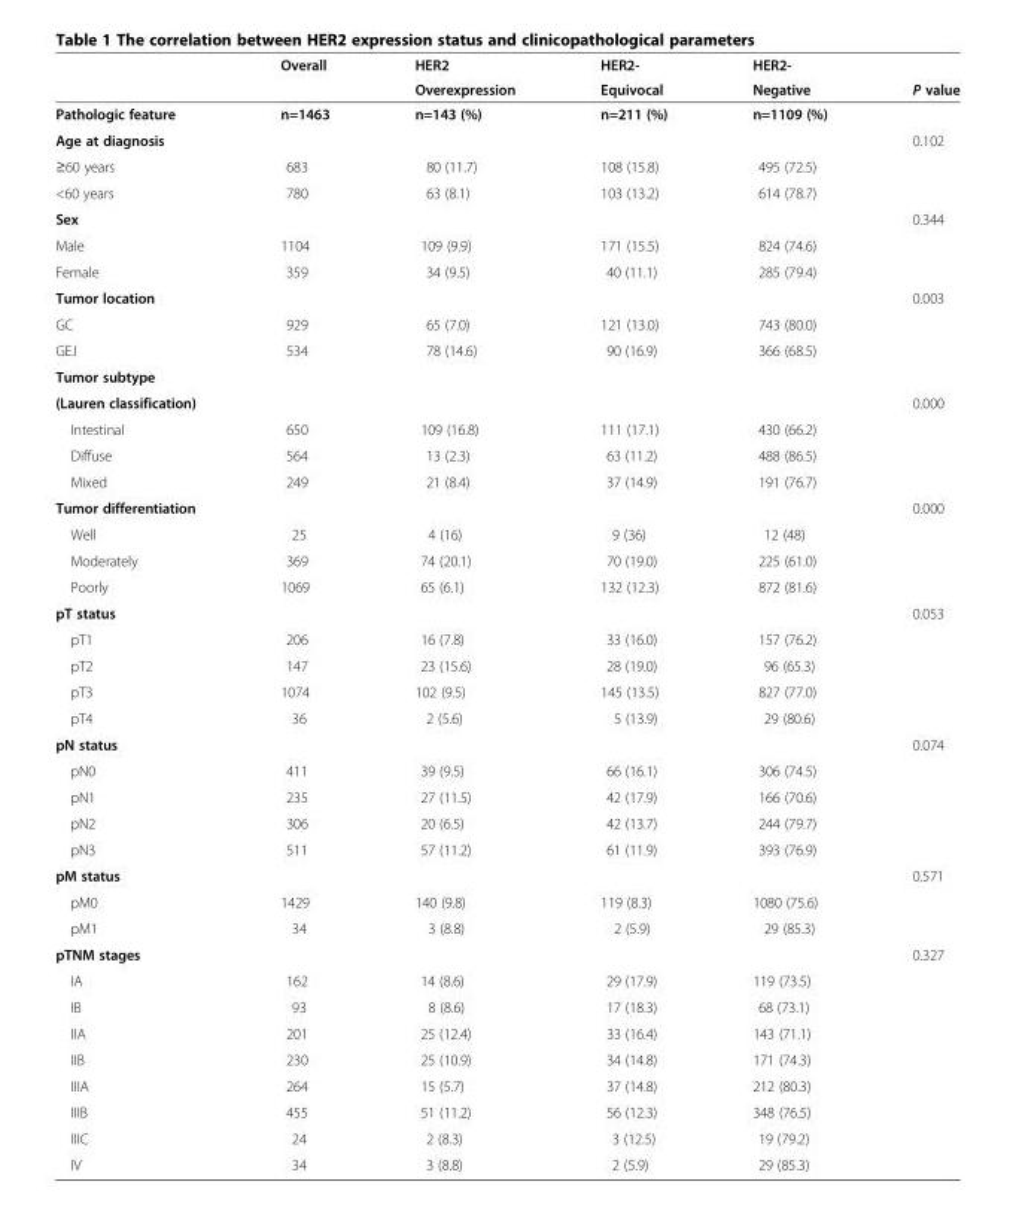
<table><thead><tr><td rowspan="2"></td><td rowspan="2">Overall</td><td rowspan="2">HER2 Overexpression</td><td rowspan="2">HER2- Equivocal</td><td rowspan="2">HER2- Negative</td><td rowspan="2">P value</td></tr><tr></tr></thead><tbody><tr><td>Pathologic feature</td><td>n=1463</td><td>n=143 (%)</td><td>n=211 (%)</td><td>n=1109 (%)</td><td></td></tr><tr><td>Age at diagnosis</td><td></td><td></td><td></td><td></td><td>0.102</td></tr><tr><td>≥60 years</td><td>683</td><td>80 (11.7)</td><td>108 (15.8)</td><td>495 (72.5)</td><td></td></tr><tr><td>&lt;60 years</td><td>780</td><td>63 (8.1)</td><td>103 (13.2)</td><td>614 (78.7)</td><td></td></tr><tr><td>Sex</td><td></td><td></td><td></td><td></td><td>0.344</td></tr><tr><td>Male</td><td>1104</td><td>109 (9.9)</td><td>171 (15.5)</td><td>824 (74.6)</td><td></td></tr><tr><td>Female</td><td>359</td><td>34 (9.5)</td><td>40 (11.1)</td><td>285 (79.4)</td><td></td></tr><tr><td>Tumor location</td><td></td><td></td><td></td><td></td><td>0.003</td></tr><tr><td>GC</td><td>929</td><td>65 (7.0)</td><td>121 (13.0)</td><td>743 (80.0)</td><td></td></tr><tr><td>GEJ</td><td>534</td><td>78 (14.6)</td><td>90 (16.9)</td><td>366 (68.5)</td><td></td></tr><tr><td colspan="6">Tumor subtype</td></tr><tr><td colspan="2">(Lauren classification)</td><td></td><td></td><td></td><td>0.000</td></tr><tr><td>Intestinal</td><td>650</td><td>109 (16.8)</td><td>111 (17.1)</td><td>430 (66.2)</td><td></td></tr><tr><td>Diffuse</td><td>564</td><td>13 (2.3)</td><td>63 (11.2)</td><td>488 (86.5)</td><td></td></tr><tr><td>Mixed</td><td>249</td><td>21 (8.4)</td><td>37 (14.9)</td><td>191 (76.7)</td><td></td></tr><tr><td>Tumor differentiation</td><td></td><td></td><td></td><td></td><td>0.000</td></tr><tr><td>Well</td><td>25</td><td>4 (16)</td><td>9 (36)</td><td>12 (48)</td><td></td></tr><tr><td>Moderately</td><td>369</td><td>74 (20.1)</td><td>70 (19.0)</td><td>225 (61.0)</td><td></td></tr><tr><td>Poorly</td><td>1069</td><td>65 (6.1)</td><td>132 (12.3)</td><td>872 (81.6)</td><td></td></tr><tr><td>pT status</td><td></td><td></td><td></td><td></td><td>0.053</td></tr><tr><td>pT1</td><td>206</td><td>16 (7.8)</td><td>33 (16.0)</td><td>157 (76.2)</td><td></td></tr><tr><td>pT2</td><td>147</td><td>23 (15.6)</td><td>28 (19.0)</td><td>96 (65.3)</td><td></td></tr><tr><td>pT3</td><td>1074</td><td>102 (9.5)</td><td>145 (13.5)</td><td>827 (77.0)</td><td></td></tr><tr><td>pT4</td><td>36</td><td>2 (5.6)</td><td>5 (13.9)</td><td>29 (80.6)</td><td></td></tr><tr><td>pN status</td><td></td><td></td><td></td><td></td><td>0.074</td></tr><tr><td>pN0</td><td>411</td><td>39 (9.5)</td><td>66 (16.1)</td><td>306 (74.5)</td><td></td></tr><tr><td>pN1</td><td>235</td><td>27 (11.5)</td><td>42 (17.9)</td><td>166 (70.6)</td><td></td></tr><tr><td>pN2</td><td>306</td><td>20 (6.5)</td><td>42 (13.7)</td><td>244 (79.7)</td><td></td></tr><tr><td>pN3</td><td>511</td><td>57 (11.2)</td><td>61 (11.9)</td><td>393 (76.9)</td><td></td></tr><tr><td>pM status</td><td></td><td></td><td></td><td></td><td>0.571</td></tr><tr><td>pM0</td><td>1429</td><td>140 (9.8)</td><td>119 (8.3)</td><td>1080 (75.6)</td><td></td></tr><tr><td>pM1</td><td>34</td><td>3 (8.8)</td><td>2 (5.9)</td><td>29 (85.3)</td><td></td></tr><tr><td>pTNM stages</td><td></td><td></td><td></td><td></td><td>0.327</td></tr><tr><td>IA</td><td>162</td><td>14 (8.6)</td><td>29 (17.9)</td><td>119 (73.5)</td><td></td></tr><tr><td>IB</td><td>93</td><td>8 (8.6)</td><td>17 (18.3)</td><td>68 (73.1)</td><td></td></tr><tr><td>IIA</td><td>201</td><td>25 (12.4)</td><td>33 (16.4)</td><td>143 (71.1)</td><td></td></tr><tr><td>IIB</td><td>230</td><td>25 (10.9)</td><td>34 (14.8)</td><td>171 (74.3)</td><td></td></tr><tr><td>IIIA</td><td>264</td><td>15 (5.7)</td><td>37 (14.8)</td><td>212 (80.3)</td><td></td></tr><tr><td>IIIB</td><td>455</td><td>51 (11.2)</td><td>56 (12.3)</td><td>348 (76.5)</td><td></td></tr><tr><td>IIIC</td><td>24</td><td>2 (8.3)</td><td>3 (12.5)</td><td>19 (79.2)</td><td></td></tr><tr><td>IV</td><td>34</td><td>3 (8.8)</td><td>2 (5.9)</td><td>29 (85.3)</td><td></td></tr></tbody></table>